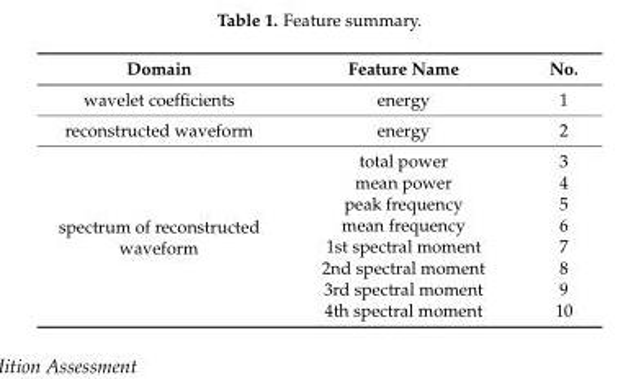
<table><thead><tr><td>Domain</td><td>Feature Name</td><td>No.</td></tr></thead><tbody><tr><td>wavelet coefficients</td><td>energy</td><td>1</td></tr><tr><td>reconstructed waveform</td><td>energy</td><td>2</td></tr><tr><td rowspan="8">spectrum of reconstructed waveform</td><td>total power</td><td>3</td></tr><tr><td>mean power</td><td>4</td></tr><tr><td>peak frequency</td><td>5</td></tr><tr><td>mean frequency</td><td>6</td></tr><tr><td>1st spectral moment</td><td>7</td></tr><tr><td>2nd spectral moment</td><td>8</td></tr><tr><td>3rd spectral moment</td><td>9</td></tr><tr><td>4th spectral moment</td><td>10</td></tr></tbody></table>